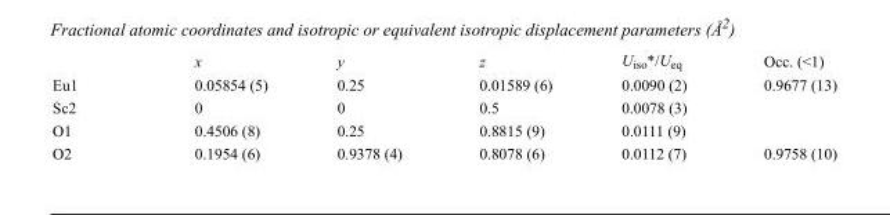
<table><thead><tr><td></td><td>x</td><td>y</td><td>z</td><td>U<sub>iso</sub>*/U<sub>eq</sub></td><td>Occ. (&lt;1)</td></tr></thead><tbody><tr><td>Eu1</td><td>0.05854 (5)</td><td>0.25</td><td>0.01589 (6)</td><td>0.0090 (2)</td><td>0.9677 (13)</td></tr><tr><td>Sc2</td><td>0</td><td>0</td><td>0.5</td><td>0.0078 (3)</td><td></td></tr><tr><td>O1</td><td>0.4506 (8)</td><td>0.25</td><td>0.8815 (9)</td><td>0.0111 (9)</td><td></td></tr><tr><td>O2</td><td>0.1954 (6)</td><td>0.9378 (4)</td><td>0.8078 (6)</td><td>0.0112 (7)</td><td>0.9758 (10)</td></tr></tbody></table>